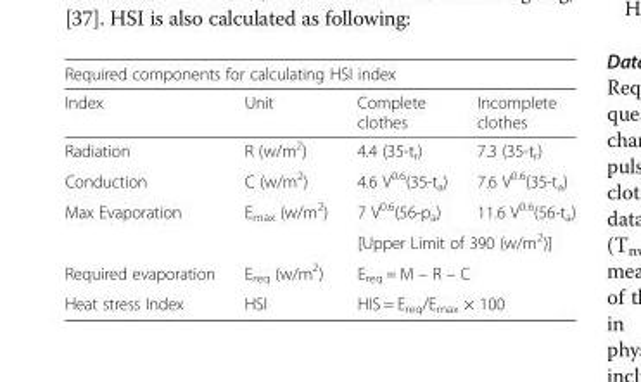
<table><thead><tr><td colspan="4">Required components for calculating HSI index</td></tr><tr><td>Index</td><td>Unit</td><td>Complete clothes</td><td>Incomplete clothes</td></tr></thead><tbody><tr><td>Radiation</td><td>R (w/m<sup>2</sup>)</td><td>4.4 (35-t<sub>r</sub>)</td><td>7.3 (35-t<sub>r</sub>)</td></tr><tr><td>Conduction</td><td>C (w/m<sup>2</sup>)</td><td>4.6 V<sup>0.6</sup>(35-t<sub>a</sub>)</td><td>7.6 V<sup>0.6</sup>(35-t<sub>a</sub>)</td></tr><tr><td rowspan="2">Max Evaporation</td><td rowspan="2">E<sub>max</sub> (w/m<sup>2</sup>)</td><td>7 V<sup>0.6</sup>(56-p<sub>a</sub>)</td><td>11.6 V<sup>0.6</sup>(56-t<sub>a</sub>)</td></tr><tr><td colspan="2">[Upper Limit of 390 (w/m<sup>2</sup>)]</td></tr><tr><td>Required evaporation</td><td>E<sub>req</sub> (w/m<sup>2</sup>)</td><td colspan="2">E<sub>req</sub> = M – R – C</td></tr><tr><td>Heat stress Index</td><td>HSI</td><td colspan="2">HIS = E<sub>req</sub>/E<sub>max</sub> × 100</td></tr></tbody></table>